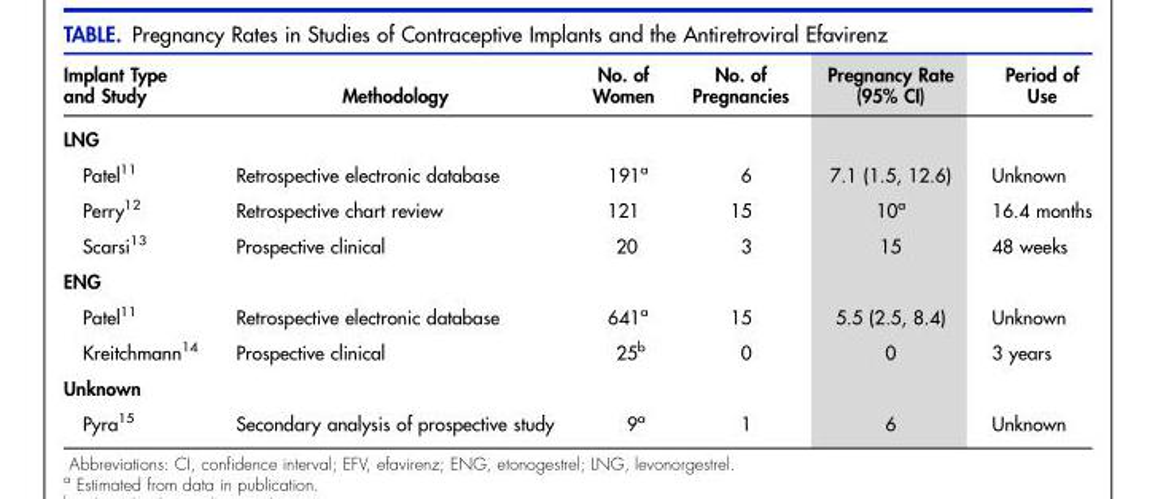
<table><thead><tr><td>Implant Type and Study</td><td>Methodology</td><td>No. of Women</td><td>No. of Pregnancies</td><td>Pregnancy Rate (95% CI)</td><td>Period of Use</td></tr></thead><tbody><tr><td colspan="6">LNG</td></tr><tr><td>Patel<sup>11</sup></td><td>Retrospective electronic database</td><td>191<sup>a</sup></td><td>6</td><td>7.1 (1.5, 12.6)</td><td>Unknown</td></tr><tr><td>Perry<sup>12</sup></td><td>Retrospective chart review</td><td>121</td><td>15</td><td>10<sup>a</sup></td><td>16.4 months</td></tr><tr><td>Scarsi<sup>13</sup></td><td>Prospective clinical</td><td>20</td><td>3</td><td>15</td><td>48 weeks</td></tr><tr><td colspan="6">ENG</td></tr><tr><td>Patel<sup>11</sup></td><td>Retrospective electronic database</td><td>641<sup>a</sup></td><td>15</td><td>5.5 (2.5, 8.4)</td><td>Unknown</td></tr><tr><td>Kreitchmann<sup>14</sup></td><td>Prospective clinical</td><td>25<sup>b</sup></td><td>0</td><td>0</td><td>3 years</td></tr><tr><td colspan="6">Unknown</td></tr><tr><td>Pyra<sup>15</sup></td><td>Secondary analysis of prospective study</td><td>9<sup>a</sup></td><td>1</td><td>6</td><td>Unknown</td></tr></tbody></table>